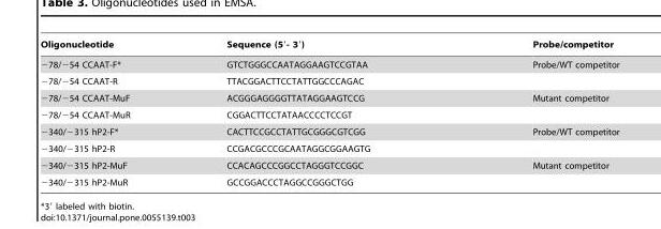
<table><thead><tr><td>Oligonucleotide</td><td>Sequence (5′- 3′)</td><td>Probe/competitor</td></tr></thead><tbody><tr><td>−78/−54 CCAAT-F*</td><td>GTCTGGGCCAATAGGAAGTCCGTAA</td><td>Probe/WT competitor</td></tr><tr><td>−78/−54 CCAAT-R</td><td>TTACGGACTTCCTATTGGCCCAGAC</td><td></td></tr><tr><td>−78/−54 CCAAT-MuF</td><td>ACGGGAGGGGTTATAGGAAGTCCG</td><td>Mutant competitor</td></tr><tr><td>−78/−54 CCAAT-MuR</td><td>CGGACTTCCTATAACCCCTCCGT</td><td></td></tr><tr><td>−340/−315 hP2-F*</td><td>CACTTCCGCCTATTGCGGGCGTCGG</td><td>Probe/WT competitor</td></tr><tr><td>−340/−315 hP2-R</td><td>CCGACGCCCGCAATAGGCGGAAGTG</td><td></td></tr><tr><td>−340/−315 hP2-MuF</td><td>CCACAGCCCGGCCTAGGGTCCGGC</td><td>Mutant competitor</td></tr><tr><td>−340/−315 hP2-MuR</td><td>GCCGGACCCTAGGCCGGGCTGG</td><td></td></tr></tbody></table>